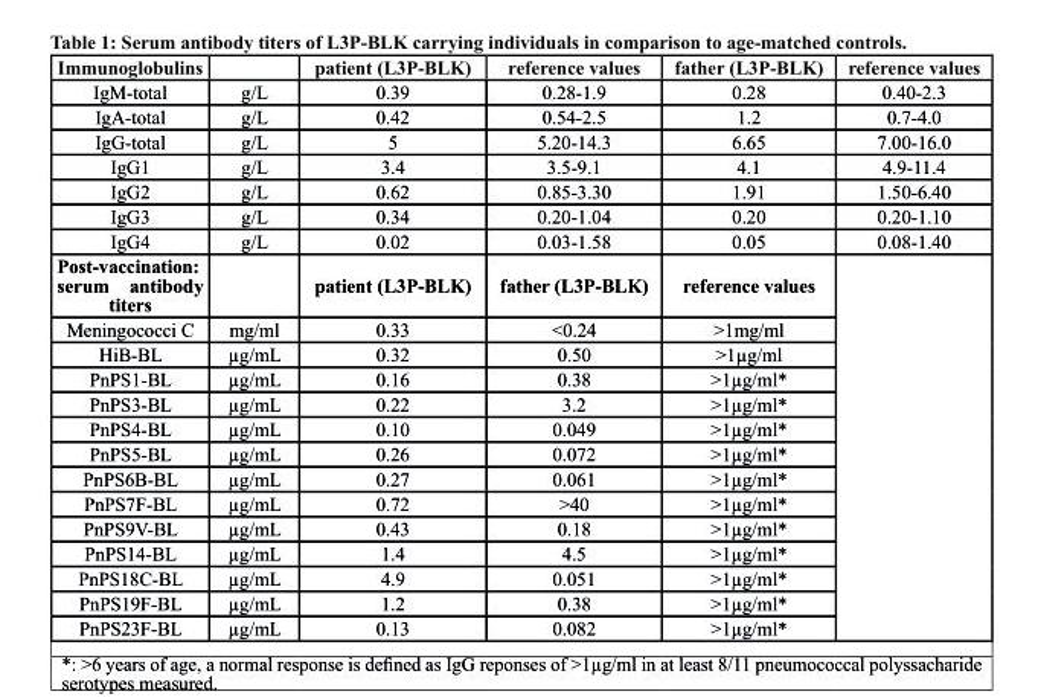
<table><thead><tr><td>Immunoglobulins</td><td></td><td>patient (L3P-BLK)</td><td>reference values</td><td>father (L3P-BLK)</td><td>reference values</td></tr></thead><tbody><tr><td>IgM-total</td><td>g/L</td><td>0.39</td><td>0.28-1.9</td><td>0.28</td><td>0.40-2.3</td></tr><tr><td>IgA-total</td><td>g/L</td><td>0.42</td><td>0.54-2.5</td><td>1.2</td><td>0.7-4.0</td></tr><tr><td>IgG-total</td><td>g/L</td><td>5</td><td>5.20-14.3</td><td>6.65</td><td>7.00-16.0</td></tr><tr><td>IgG1</td><td>g/L</td><td>3.4</td><td>3.5-9.1</td><td>4.1</td><td>4.9-11.4</td></tr><tr><td>IgG2</td><td>g/L</td><td>0.62</td><td>0.85-3.30</td><td>1.91</td><td>1.50-6.40</td></tr><tr><td>IgG3</td><td>g/L</td><td>0.34</td><td>0.20-1.04</td><td>0.20</td><td>0.20-1.10</td></tr><tr><td>IgG4</td><td>g/L</td><td>0.02</td><td>0.03-1.58</td><td>0.05</td><td>0.08-1.40</td></tr><tr><td>Post-vaccination: serum antibody titers</td><td></td><td>patient (L3P-BLK)</td><td>father (L3P-BLK)</td><td>reference values</td><td rowspan="14"></td></tr><tr><td>Meningococci C</td><td>mg/ml</td><td>0.33</td><td>&lt;0.24</td><td>&gt;1mg/ml</td></tr><tr><td>HiB-BL</td><td>µg/mL</td><td>0.32</td><td>0.50</td><td>&gt;1µg/ml</td></tr><tr><td>PnPS1-BL</td><td>µg/mL</td><td>0.16</td><td>0.38</td><td>&gt;1µg/ml*</td></tr><tr><td>PnPS3-BL</td><td>µg/mL</td><td>0.22</td><td>3.2</td><td>&gt;1µg/ml*</td></tr><tr><td>PnPS4-BL</td><td>µg/mL</td><td>0.10</td><td>0.049</td><td>&gt;1µg/ml*</td></tr><tr><td>PnPS5-BL</td><td>µg/mL</td><td>0.26</td><td>0.072</td><td>&gt;1µg/ml*</td></tr><tr><td>PnPS6B-BL</td><td>µg/mL</td><td>0.27</td><td>0.061</td><td>&gt;1µg/ml*</td></tr><tr><td>PnPS7F-BL</td><td>µg/mL</td><td>0.72</td><td>&gt;40</td><td>&gt;1µg/ml*</td></tr><tr><td>PnPS9V-BL</td><td>µg/mL</td><td>0.43</td><td>0.18</td><td>&gt;1µg/ml*</td></tr><tr><td>PnPS14-BL</td><td>µg/mL</td><td>1.4</td><td>4.5</td><td>&gt;1µg/ml*</td></tr><tr><td>PnPS18C-BL</td><td>µg/mL</td><td>4.9</td><td>0.051</td><td>&gt;1µg/ml*</td></tr><tr><td>PnPS19F-BL</td><td>µg/mL</td><td>1.2</td><td>0.38</td><td>&gt;1µg/ml*</td></tr><tr><td>PnPS23F-BL</td><td>µg/mL</td><td>0.13</td><td>0.082</td><td>&gt;1µg/ml*</td></tr></tbody></table>